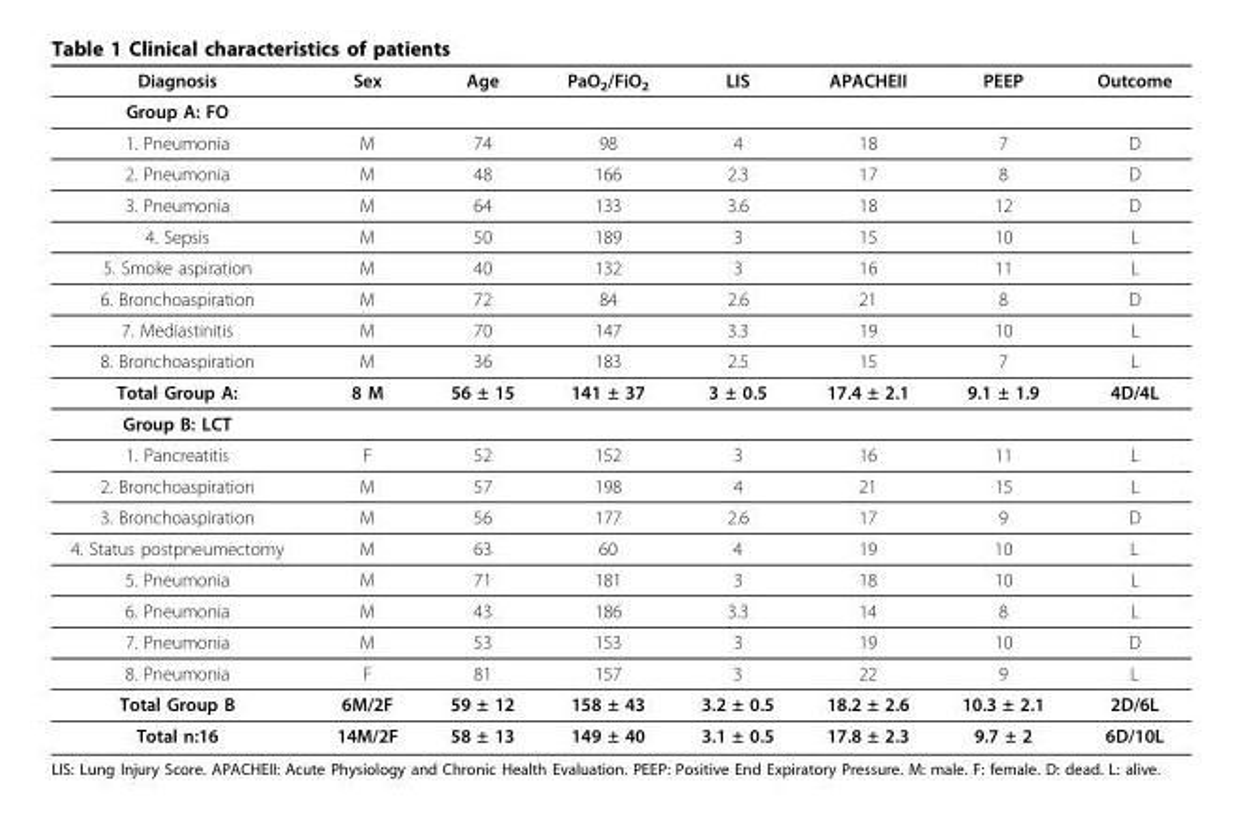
<table><thead><tr><td>Diagnosis</td><td>Sex</td><td>Age</td><td>PaO<sub>2</sub>/FiO<sub>2</sub></td><td>LIS</td><td>APACHEII</td><td>PEEP</td><td>Outcome</td></tr></thead><tbody><tr><td colspan="8">Group A: FO</td></tr><tr><td>1. Pneumonia</td><td>M</td><td>74</td><td>98</td><td>4</td><td>18</td><td>7</td><td>D</td></tr><tr><td>2. Pneumonia</td><td>M</td><td>48</td><td>166</td><td>2.3</td><td>17</td><td>8</td><td>D</td></tr><tr><td>3. Pneumonia</td><td>M</td><td>64</td><td>133</td><td>3.6</td><td>18</td><td>12</td><td>D</td></tr><tr><td>4. Sepsis</td><td>M</td><td>50</td><td>189</td><td>3</td><td>15</td><td>10</td><td>L</td></tr><tr><td>5. Smoke aspiration</td><td>M</td><td>40</td><td>132</td><td>3</td><td>16</td><td>11</td><td>L</td></tr><tr><td>6. Bronchoaspiration</td><td>M</td><td>72</td><td>84</td><td>2.6</td><td>21</td><td>8</td><td>D</td></tr><tr><td>7. Mediastinitis</td><td>M</td><td>70</td><td>147</td><td>3.3</td><td>19</td><td>10</td><td>L</td></tr><tr><td>8. Bronchoaspiration</td><td>M</td><td>36</td><td>183</td><td>2.5</td><td>15</td><td>7</td><td>L</td></tr><tr><td>Total Group A:</td><td>8 M</td><td>56 ± 15</td><td>141 ± 37</td><td>3 ± 0.5</td><td>17.4 ± 2.1</td><td>9.1 ± 1.9</td><td>4D/4L</td></tr><tr><td colspan="8">Group B: LCT</td></tr><tr><td>1. Pancreatitis</td><td>F</td><td>52</td><td>152</td><td>3</td><td>16</td><td>11</td><td>L</td></tr><tr><td>2. Bronchoaspiration</td><td>M</td><td>57</td><td>198</td><td>4</td><td>21</td><td>15</td><td>L</td></tr><tr><td>3. Bronchoaspiration</td><td>M</td><td>56</td><td>177</td><td>2.6</td><td>17</td><td>9</td><td>D</td></tr><tr><td>4. Status postpneumectomy</td><td>M</td><td>63</td><td>60</td><td>4</td><td>19</td><td>10</td><td>L</td></tr><tr><td>5. Pneumonia</td><td>M</td><td>71</td><td>181</td><td>3</td><td>18</td><td>10</td><td>L</td></tr><tr><td>6. Pneumonia</td><td>M</td><td>43</td><td>186</td><td>3.3</td><td>14</td><td>8</td><td>L</td></tr><tr><td>7. Pneumonia</td><td>M</td><td>53</td><td>153</td><td>3</td><td>19</td><td>10</td><td>D</td></tr><tr><td>8. Pneumonia</td><td>F</td><td>81</td><td>157</td><td>3</td><td>22</td><td>9</td><td>L</td></tr><tr><td>Total Group B</td><td>6M/2F</td><td>59 ± 12</td><td>158 ± 43</td><td>3.2 ± 0.5</td><td>18.2 ± 2.6</td><td>10.3 ± 2.1</td><td>2D/6L</td></tr><tr><td>Total n:16</td><td>14M/2F</td><td>58 ± 13</td><td>149 ± 40</td><td>3.1 ± 0.5</td><td>17.8 ± 2.3</td><td>9.7 ± 2</td><td>6D/10L</td></tr></tbody></table>